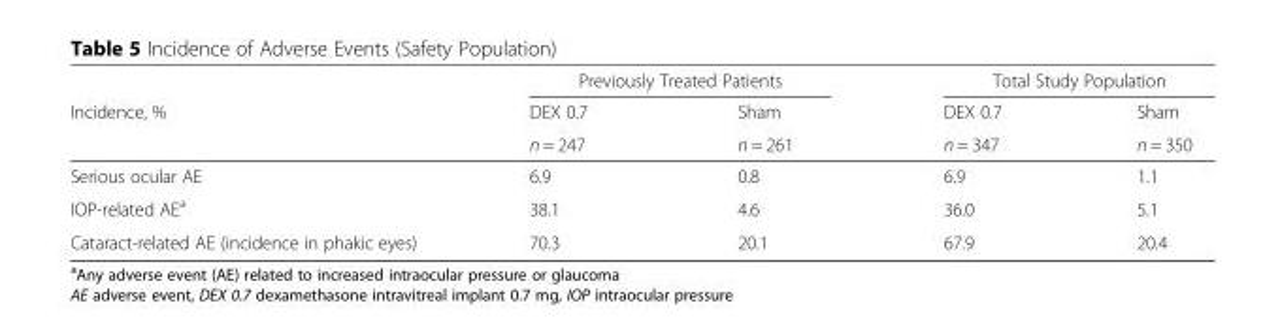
<table><thead><tr><td rowspan="2">Incidence, %</td><td colspan="2">Previously Treated Patients</td><td colspan="2">Total Study Population</td></tr><tr><td>DEX 0.7</td><td>Sham</td><td>DEX 0.7</td><td>Sham</td></tr></thead><tbody><tr><td></td><td>n = 247</td><td>n = 261</td><td>n = 347</td><td>n = 350</td></tr><tr><td>Serious ocular AE</td><td>6.9</td><td>0.8</td><td>6.9</td><td>1.1</td></tr><tr><td>IOP-related AE<sup>a</sup></td><td>38.1</td><td>4.6</td><td>36.0</td><td>5.1</td></tr><tr><td>Cataract-related AE (incidence in phakic eyes)</td><td>70.3</td><td>20.1</td><td>67.9</td><td>20.4</td></tr></tbody></table>